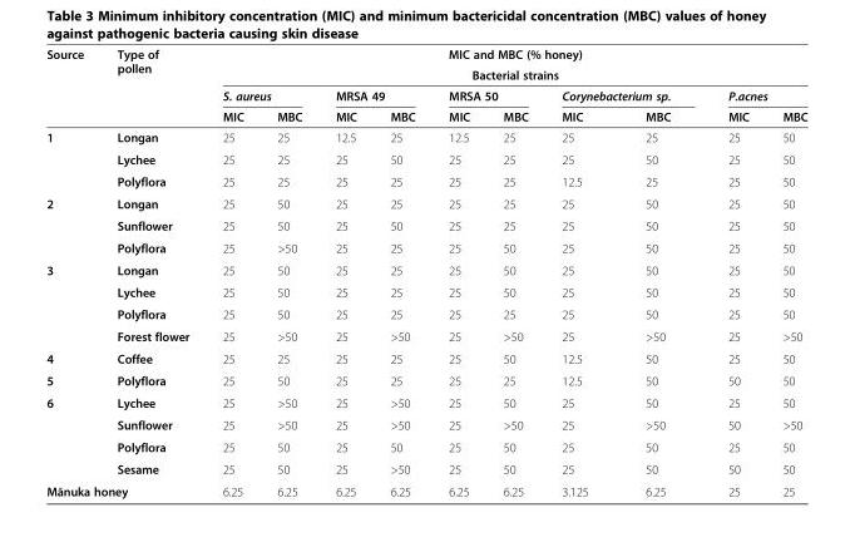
<table><thead><tr><td rowspan="4">Source</td><td rowspan="4">Type of pollen</td><td rowspan="2" colspan="10">MIC and MBC (% honey) Bacterial strains</td></tr><tr></tr><tr><td colspan="2">S. aureus</td><td colspan="2">MRSA 49</td><td colspan="2">MRSA 50</td><td colspan="2">Corynebacterium sp.</td><td colspan="2">P.acnes</td></tr><tr><td>MIC</td><td>MBC</td><td>MIC</td><td>MBC</td><td>MIC</td><td>MBC</td><td>MIC</td><td>MBC</td><td>MIC</td><td>MBC</td></tr></thead><tbody><tr><td rowspan="3">1</td><td>Longan</td><td>25</td><td>25</td><td>12.5</td><td>25</td><td>12.5</td><td>25</td><td>25</td><td>25</td><td>25</td><td>50</td></tr><tr><td>Lychee</td><td>25</td><td>25</td><td>25</td><td>50</td><td>25</td><td>25</td><td>25</td><td>50</td><td>25</td><td>50</td></tr><tr><td>Polyflora</td><td>25</td><td>25</td><td>25</td><td>25</td><td>25</td><td>25</td><td>12.5</td><td>25</td><td>25</td><td>50</td></tr><tr><td rowspan="3">2</td><td>Longan</td><td>25</td><td>50</td><td>25</td><td>25</td><td>25</td><td>25</td><td>25</td><td>50</td><td>25</td><td>50</td></tr><tr><td>Sunflower</td><td>25</td><td>50</td><td>25</td><td>50</td><td>25</td><td>25</td><td>25</td><td>50</td><td>25</td><td>50</td></tr><tr><td>Polyflora</td><td>25</td><td>&gt;50</td><td>25</td><td>25</td><td>25</td><td>50</td><td>25</td><td>50</td><td>25</td><td>50</td></tr><tr><td rowspan="4">3</td><td>Longan</td><td>25</td><td>50</td><td>25</td><td>25</td><td>25</td><td>50</td><td>25</td><td>50</td><td>25</td><td>50</td></tr><tr><td>Lychee</td><td>25</td><td>50</td><td>25</td><td>25</td><td>25</td><td>50</td><td>25</td><td>50</td><td>25</td><td>50</td></tr><tr><td>Polyflora</td><td>25</td><td>50</td><td>25</td><td>25</td><td>25</td><td>25</td><td>25</td><td>50</td><td>25</td><td>50</td></tr><tr><td>Forest flower</td><td>25</td><td>&gt;50</td><td>25</td><td>&gt;50</td><td>25</td><td>&gt;50</td><td>25</td><td>&gt;50</td><td>25</td><td>&gt;50</td></tr><tr><td>4</td><td>Coffee</td><td>25</td><td>25</td><td>25</td><td>25</td><td>25</td><td>50</td><td>12.5</td><td>50</td><td>25</td><td>50</td></tr><tr><td>5</td><td>Polyflora</td><td>25</td><td>50</td><td>25</td><td>25</td><td>25</td><td>25</td><td>12.5</td><td>50</td><td>50</td><td>50</td></tr><tr><td rowspan="4">6</td><td>Lychee</td><td>25</td><td>&gt;50</td><td>25</td><td>&gt;50</td><td>25</td><td>50</td><td>25</td><td>50</td><td>25</td><td>50</td></tr><tr><td>Sunflower</td><td>25</td><td>&gt;50</td><td>25</td><td>&gt;50</td><td>25</td><td>&gt;50</td><td>25</td><td>&gt;50</td><td>50</td><td>&gt;50</td></tr><tr><td>Polyflora</td><td>25</td><td>50</td><td>25</td><td>50</td><td>25</td><td>50</td><td>25</td><td>50</td><td>25</td><td>50</td></tr><tr><td>Sesame</td><td>25</td><td>50</td><td>25</td><td>&gt;50</td><td>25</td><td>50</td><td>25</td><td>50</td><td>50</td><td>50</td></tr><tr><td colspan="2">Mānuka honey</td><td>6.25</td><td>6.25</td><td>6.25</td><td>6.25</td><td>6.25</td><td>6.25</td><td>3.125</td><td>6.25</td><td>25</td><td>25</td></tr></tbody></table>